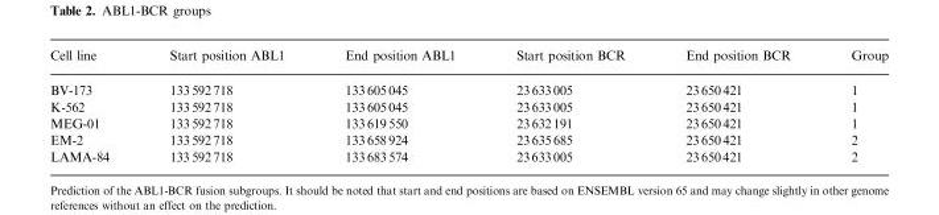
<table><thead><tr><td>Cell line</td><td>Start position ABL1</td><td>End position ABL1</td><td>Start position BCR</td><td>End position BCR</td><td>Group</td></tr></thead><tbody><tr><td>BV-173</td><td>133 592 718</td><td>133605 045</td><td>23633 005</td><td>23 650421</td><td>1</td></tr><tr><td>K-562</td><td>133 592 718</td><td>133605 045</td><td>23633 005</td><td>23 650421</td><td>1</td></tr><tr><td>MEG-01</td><td>133 592 718</td><td>133619 550</td><td>23632 191</td><td>23 650421</td><td>1</td></tr><tr><td>EM-2</td><td>133 592 718</td><td>133658 924</td><td>23635 685</td><td>23 650421</td><td>2</td></tr><tr><td>LAMA-84</td><td>133 592 718</td><td>133683 574</td><td>23633 005</td><td>23 650421</td><td>2</td></tr></tbody></table>